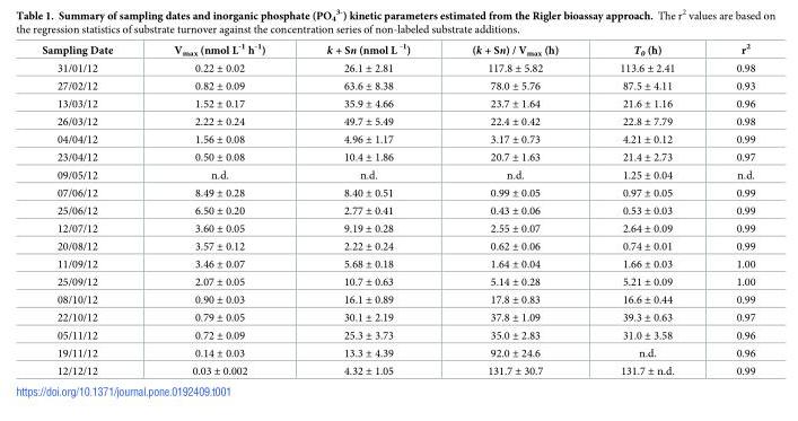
<table><thead><tr><td>Sampling Date</td><td>V<sub>max</sub> (nmol L<sup>-1</sup> h<sup>-1</sup>)</td><td>k + Sn (nmol L <sup>-1</sup>)</td><td>(k + Sn) / V<sub>max</sub> (h)</td><td>T<sub>0</sub> (h)</td><td>r<sup>2</sup></td></tr></thead><tbody><tr><td>31/01/12</td><td>0.22 ± 0.02</td><td>26.1 ± 2.81</td><td>117.8 ± 5.82</td><td>113.6 ± 2.41</td><td>0.98</td></tr><tr><td>27/02/12</td><td>0.82 ± 0.09</td><td>63.6 ± 8.38</td><td>78.0 ± 5.76</td><td>87.5 ± 4.11</td><td>0.93</td></tr><tr><td>13/03/12</td><td>1.52 ± 0.17</td><td>35.9 ± 4.66</td><td>23.7 ± 1.64</td><td>21.6 ± 1.16</td><td>0.96</td></tr><tr><td>26/03/12</td><td>2.22 ± 0.24</td><td>49.7 ± 5.49</td><td>22.4 ± 0.42</td><td>22.8 ± 7.79</td><td>0.98</td></tr><tr><td>04/04/12</td><td>1.56 ± 0.08</td><td>4.96 ± 1.17</td><td>3.17 ± 0.73</td><td>4.21 ± 0.12</td><td>0.99</td></tr><tr><td>23/04/12</td><td>0.50 ± 0.08</td><td>10.4 ± 1.86</td><td>20.7 ± 1.63</td><td>21.4 ± 2.73</td><td>0.97</td></tr><tr><td>09/05/12</td><td>n.d.</td><td>n.d.</td><td>n.d.</td><td>1.25 ± 0.04</td><td>n.d.</td></tr><tr><td>07/06/12</td><td>8.49 ± 0.28</td><td>8.40 ± 0.51</td><td>0.99 ± 0.05</td><td>0.97 ± 0.05</td><td>0.99</td></tr><tr><td>25/06/12</td><td>6.50 ± 0.20</td><td>2.77 ± 0.41</td><td>0.43 ± 0.06</td><td>0.53 ± 0.03</td><td>0.99</td></tr><tr><td>12/07/12</td><td>3.60 ± 0.05</td><td>9.19 ± 0.28</td><td>2.55 ± 0.07</td><td>2.64 ± 0.09</td><td>0.99</td></tr><tr><td>20/08/12</td><td>3.57 ± 0.12</td><td>2.22 ± 0.24</td><td>0.62 ± 0.06</td><td>0.74 ± 0.01</td><td>0.99</td></tr><tr><td>11/09/12</td><td>3.46 ± 0.07</td><td>5.68 ± 0.18</td><td>1.64 ± 0.04</td><td>1.66 ± 0.03</td><td>1.00</td></tr><tr><td>25/09/12</td><td>2.07 ± 0.05</td><td>10.7 ± 0.63</td><td>5.14 ± 0.28</td><td>5.21 ± 0.09</td><td>1.00</td></tr><tr><td>08/10/12</td><td>0.90 ± 0.03</td><td>16.1 ± 0.89</td><td>17.8 ± 0.83</td><td>16.6 ± 0.44</td><td>0.99</td></tr><tr><td>22/10/12</td><td>0.79 ± 0.05</td><td>30.1 ± 2.19</td><td>37.8 ± 1.09</td><td>39.3 ± 0.63</td><td>0.97</td></tr><tr><td>05/11/12</td><td>0.72 ± 0.09</td><td>25.3 ± 3.73</td><td>35.0 ± 2.83</td><td>31.0 ± 3.58</td><td>0.96</td></tr><tr><td>19/11/12</td><td>0.14 ± 0.03</td><td>13.3 ± 4.39</td><td>92.0 ± 24.6</td><td>n.d.</td><td>0.96</td></tr><tr><td>12/12/12</td><td>0.03 ± 0.002</td><td>4.32 ± 1.05</td><td>131.7 ± 30.7</td><td>131.7 ± n.d.</td><td>0.99</td></tr></tbody></table>